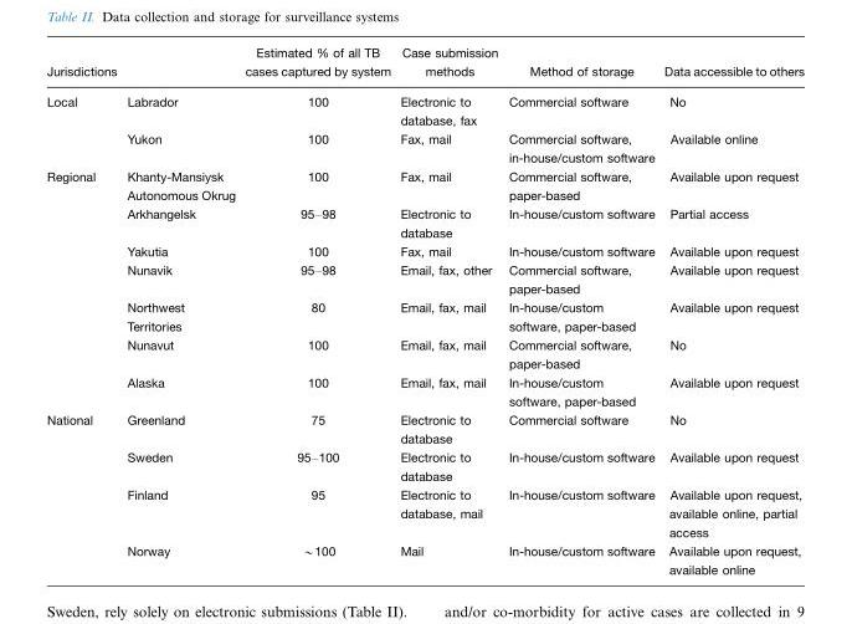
<table><thead><tr><td>Jurisdictions</td><td></td><td>Estimated % of all TB cases captured by system</td><td>Case submission methods</td><td>Method of storage</td><td>Data accessible to others</td></tr></thead><tbody><tr><td rowspan="2">Local</td><td>Labrador</td><td>100</td><td>Electronic to database, fax</td><td>Commercial software</td><td>No</td></tr><tr><td>Yukon</td><td>100</td><td>Fax, mail</td><td>Commercial software, in-house/custom software</td><td>Available online</td></tr><tr><td rowspan="7">Regional</td><td>Khanty-Mansiysk Autonomous Okrug</td><td>100</td><td>Fax, mail</td><td>Commercial software, paper-based</td><td>Available upon request</td></tr><tr><td>Arkhangelsk</td><td>95–98</td><td>Electronic to database</td><td>In-house/custom software</td><td>Partial access</td></tr><tr><td>Yakutia</td><td>100</td><td>Fax, mail</td><td>In-house/custom software</td><td>Available upon request</td></tr><tr><td>Nunavik</td><td>95–98</td><td>Email, fax, other</td><td>Commercial software, paper-based</td><td>Available upon request</td></tr><tr><td>Northwest Territories</td><td>80</td><td>Email, fax, mail</td><td>In-house/custom software, paper-based</td><td>Available upon request</td></tr><tr><td>Nunavut</td><td>100</td><td>Email, fax, mail</td><td>Commercial software, paper-based</td><td>No</td></tr><tr><td>Alaska</td><td>100</td><td>Email, fax, mail</td><td>In-house/custom software, paper-based</td><td>Available upon request</td></tr><tr><td rowspan="4">National</td><td>Greenland</td><td>75</td><td>Electronic to database</td><td>Commercial software</td><td>No</td></tr><tr><td>Sweden</td><td>95–100</td><td>Electronic to database</td><td>In-house/custom software</td><td>Available upon request</td></tr><tr><td>Finland</td><td>95</td><td>Electronic to database, mail</td><td>In-house/custom software</td><td>Available upon request, available online, partial access</td></tr><tr><td>Norway</td><td>~100</td><td>Mail</td><td>In-house/custom software</td><td>Available upon request, available online</td></tr></tbody></table>